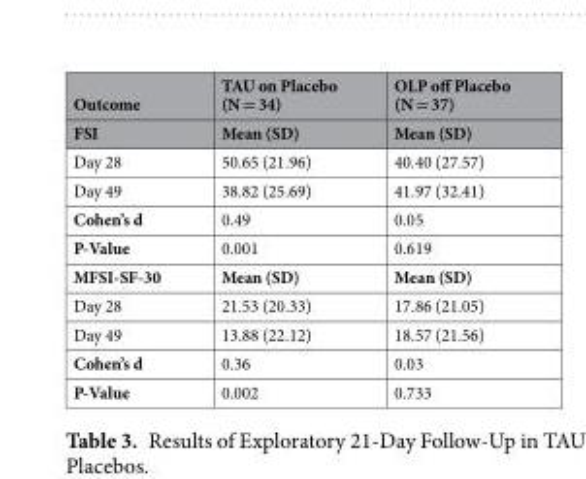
<table><thead><tr><td rowspan="2">Outcome FSI</td><td rowspan="2">TAU on Placebo (N = 34) Mean (SD)</td><td rowspan="2">OLP off Placebo (N = 37) Mean (SD)</td></tr><tr></tr></thead><tbody><tr><td>Day 28</td><td>50.65 (21.96)</td><td>40.40 (27.57)</td></tr><tr><td>Day 49</td><td>38.82 (25.69)</td><td>41.97 (32.41)</td></tr><tr><td>Cohen’s d</td><td>0.49</td><td>0.05</td></tr><tr><td>P-Value</td><td>0.001</td><td>0.619</td></tr><tr><td>MFSI-SF-30</td><td>Mean (SD)</td><td>Mean (SD)</td></tr><tr><td>Day 28</td><td>21.53 (20.33)</td><td>17.86 (21.05)</td></tr><tr><td>Day 49</td><td>13.88 (22.12)</td><td>18.57 (21.56)</td></tr><tr><td>Cohen’s d</td><td>0.36</td><td>0.03</td></tr><tr><td>P-Value</td><td>0.002</td><td>0.733</td></tr></tbody></table>